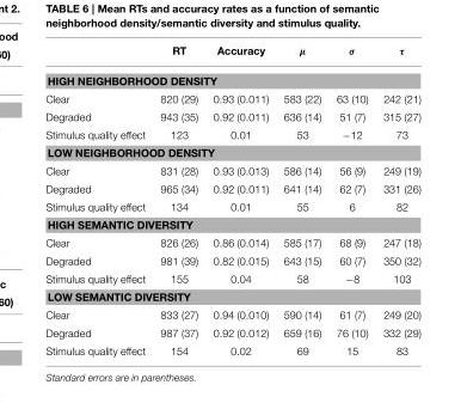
<table><thead><tr><td></td><td>RT</td><td>Accuracy</td><td>µ</td><td>σ</td><td>τ</td></tr></thead><tbody><tr><td colspan="6">HIGH NEIGHBORHOOD DENSITY</td></tr><tr><td>Clear</td><td>820 (29)</td><td>0.93 (0.011)</td><td>583 (22)</td><td>63 (10)</td><td>242 (21)</td></tr><tr><td>Degraded</td><td>943 (35)</td><td>0.92 (0.011)</td><td>636 (14)</td><td>51 (7)</td><td>315 (27)</td></tr><tr><td>Stimulus quality effect</td><td>123</td><td>0.01</td><td>53</td><td>−12</td><td>73</td></tr><tr><td colspan="6">LOW NEIGHBORHOOD DENSITY</td></tr><tr><td>Clear</td><td>831 (28)</td><td>0.93 (0.013)</td><td>586 (14)</td><td>56 (9)</td><td>249 (19)</td></tr><tr><td>Degraded</td><td>965 (34)</td><td>0.92 (0.011)</td><td>641 (14)</td><td>62 (7)</td><td>331 (26)</td></tr><tr><td>Stimulus quality effect</td><td>134</td><td>0.01</td><td>55</td><td>6</td><td>82</td></tr><tr><td colspan="6">HIGH SEMANTIC DIVERSITY</td></tr><tr><td>Clear</td><td>826 (26)</td><td>0.86 (0.014)</td><td>585 (17)</td><td>68 (9)</td><td>247 (18)</td></tr><tr><td>Degraded</td><td>981 (39)</td><td>0.82 (0.015)</td><td>643 (15)</td><td>60 (7)</td><td>350 (32)</td></tr><tr><td>Stimulus quality effect</td><td>155</td><td>0.04</td><td>58</td><td>−8</td><td>103</td></tr><tr><td colspan="6">LOW SEMANTIC DIVERSITY</td></tr><tr><td>Clear</td><td>833 (27)</td><td>0.94 (0.010)</td><td>590 (14)</td><td>61 (7)</td><td>249 (20)</td></tr><tr><td>Degraded</td><td>987 (37)</td><td>0.92 (0.012)</td><td>659 (16)</td><td>76 (10)</td><td>332 (29)</td></tr><tr><td>Stimulus quality effect</td><td>154</td><td>0.02</td><td>69</td><td>15</td><td>83</td></tr></tbody></table>